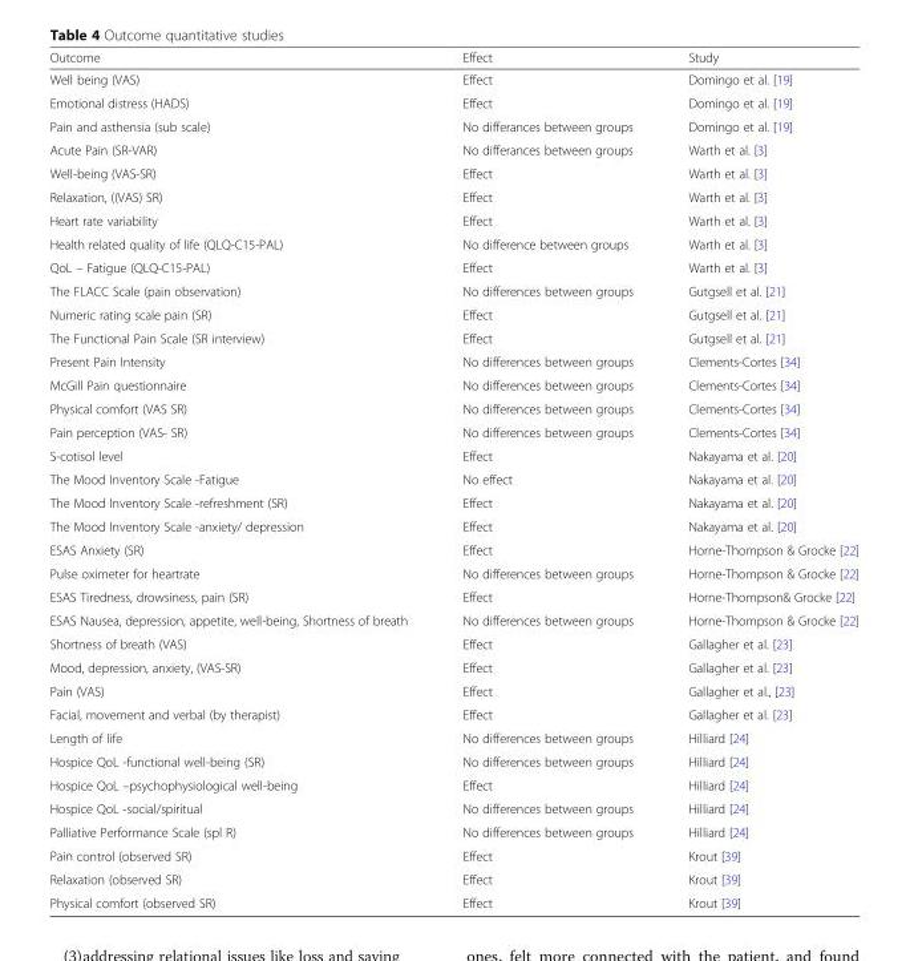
<table><thead><tr><td>Outcome</td><td>Effect</td><td>Study</td></tr></thead><tbody><tr><td>Well being (VAS)</td><td>Effect</td><td>Domingo et al. [19]</td></tr><tr><td>Emotional distress (HADS)</td><td>Effect</td><td>Domingo et al. [19]</td></tr><tr><td>Pain and asthensia (sub scale)</td><td>No differances between groups</td><td>Domingo et al. [19]</td></tr><tr><td>Acute Pain (SR-VAR)</td><td>No differances between groups</td><td>Warth et al. [3]</td></tr><tr><td>Well-being (VAS-SR)</td><td>Effect</td><td>Warth et al. [3]</td></tr><tr><td>Relaxation, ((VAS) SR)</td><td>Effect</td><td>Warth et al. [3]</td></tr><tr><td>Heart rate variability</td><td>Effect</td><td>Warth et al. [3]</td></tr><tr><td>Health related quality of life (QLQ-C15-PAL)</td><td>No difference between groups</td><td>Warth et al. [3]</td></tr><tr><td>QoL – Fatigue (QLQ-C15-PAL)</td><td>Effect</td><td>Warth et al. [3]</td></tr><tr><td>The FLACC Scale (pain observation)</td><td>No differences between groups</td><td>Gutgsell et al. [21]</td></tr><tr><td>Numeric rating scale pain (SR)</td><td>Effect</td><td>Gutgsell et al. [21]</td></tr><tr><td>The Functional Pain Scale (SR interview)</td><td>Effect</td><td>Gutgsell et al. [21]</td></tr><tr><td>Present Pain Intensity</td><td>No differences between groups</td><td>Clements-Cortes [34]</td></tr><tr><td>McGill Pain questionnaire</td><td>No differences between groups</td><td>Clements-Cortes [34]</td></tr><tr><td>Physical comfort (VAS SR)</td><td>No differences between groups</td><td>Clements-Cortes [34]</td></tr><tr><td>Pain perception (VAS- SR)</td><td>No differences between groups</td><td>Clements-Cortes [34]</td></tr><tr><td>S-cotisol level</td><td>Effect</td><td>Nakayama et al. [20]</td></tr><tr><td>The Mood Inventory Scale -Fatigue</td><td>No effect</td><td>Nakayama et al. [20]</td></tr><tr><td>The Mood Inventory Scale -refreshment (SR)</td><td>Effect</td><td>Nakayama et al. [20]</td></tr><tr><td>The Mood Inventory Scale -anxiety/ depression</td><td>Effect</td><td>Nakayama et al. [20]</td></tr><tr><td>ESAS Anxiety (SR)</td><td>Effect</td><td>Horne-Thompson &amp; Grocke [22]</td></tr><tr><td>Pulse oximeter for heartrate</td><td>No differences between groups</td><td>Horne-Thompson &amp; Grocke [22]</td></tr><tr><td>ESAS Tiredness, drowsiness, pain (SR)</td><td>Effect</td><td>Horne-Thompson&amp; Grocke [22]</td></tr><tr><td>ESAS Nausea, depression, appetite, well-being, Shortness of breath</td><td>No differences between groups</td><td>Horne-Thompson &amp; Grocke [22]</td></tr><tr><td>Shortness of breath (VAS)</td><td>Effect</td><td>Gallagher et al. [23]</td></tr><tr><td>Mood, depression, anxiety, (VAS-SR)</td><td>Effect</td><td>Gallagher et al. [23]</td></tr><tr><td>Pain (VAS)</td><td>Effect</td><td>Gallagher et al., [23]</td></tr><tr><td>Facial, movement and verbal (by therapist)</td><td>Effect</td><td>Gallagher et al. [23]</td></tr><tr><td>Length of life</td><td>No differences between groups</td><td>Hilliard [24]</td></tr><tr><td>Hospice QoL -functional well-being (SR)</td><td>No differences between groups</td><td>Hilliard [24]</td></tr><tr><td>Hospice QoL –psychophysiological well-being</td><td>Effect</td><td>Hilliard [24]</td></tr><tr><td>Hospice QoL -social/spiritual</td><td>No differences between groups</td><td>Hilliard [24]</td></tr><tr><td>Palliative Performance Scale (spl R)</td><td>No differences between groups</td><td>Hilliard [24]</td></tr><tr><td>Pain control (observed SR)</td><td>Effect</td><td>Krout [39]</td></tr><tr><td>Relaxation (observed SR)</td><td>Effect</td><td>Krout [39]</td></tr><tr><td>Physical comfort (observed SR)</td><td>Effect</td><td>Krout [39]</td></tr></tbody></table>